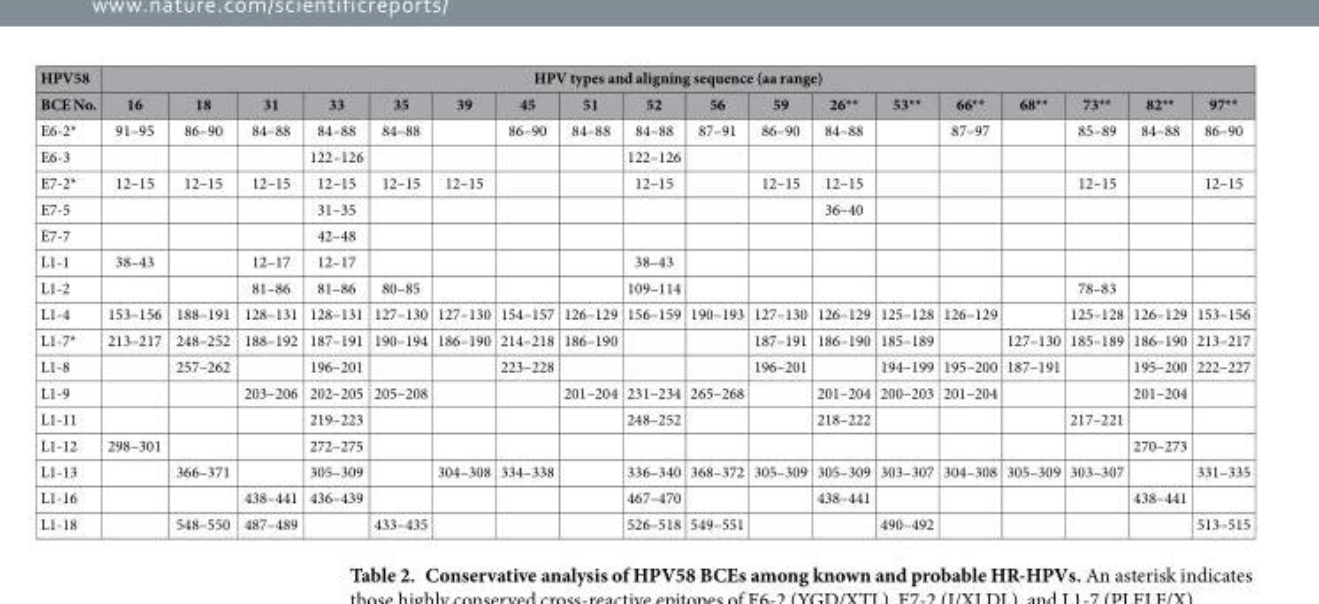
<table><thead><tr><td rowspan="2">HPV58 BCE No.</td><td colspan="18">HPV types and aligning sequence (aa range)</td></tr><tr><td>16</td><td>18</td><td>31</td><td>33</td><td>35</td><td>39</td><td>45</td><td>51</td><td>52</td><td>56</td><td>59</td><td>26**</td><td>53**</td><td>66**</td><td>68**</td><td>73**</td><td>82**</td><td>97**</td></tr></thead><tbody><tr><td>E6-2*</td><td>91–95</td><td>86–90</td><td>84–88</td><td>84–88</td><td>84–88</td><td></td><td>86–90</td><td>84–88</td><td>84–88</td><td>87–91</td><td>86–90</td><td>84–88</td><td></td><td>87–97</td><td></td><td>85–89</td><td>84–88</td><td>86–90</td></tr><tr><td>E6-3</td><td></td><td></td><td></td><td>122–126</td><td></td><td></td><td></td><td></td><td>122–126</td><td></td><td></td><td></td><td></td><td></td><td></td><td></td><td></td><td></td></tr><tr><td>E7-2*</td><td>12–15</td><td>12–15</td><td>12–15</td><td>12–15</td><td>12–15</td><td>12–15</td><td></td><td></td><td>12–15</td><td></td><td>12–15</td><td>12–15</td><td></td><td></td><td></td><td>12–15</td><td></td><td>12–15</td></tr><tr><td>E7-5</td><td></td><td></td><td></td><td>31–35</td><td></td><td></td><td></td><td></td><td></td><td></td><td></td><td>36–40</td><td></td><td></td><td></td><td></td><td></td><td></td></tr><tr><td>E7-7</td><td></td><td></td><td></td><td>42–48</td><td></td><td></td><td></td><td></td><td></td><td></td><td></td><td></td><td></td><td></td><td></td><td></td><td></td><td></td></tr><tr><td>L1-1</td><td>38–43</td><td></td><td>12–17</td><td>12–17</td><td></td><td></td><td></td><td></td><td>38–43</td><td></td><td></td><td></td><td></td><td></td><td></td><td></td><td></td><td></td></tr><tr><td>L1-2</td><td></td><td></td><td>81–86</td><td>81–86</td><td>80–85</td><td></td><td></td><td></td><td>109–114</td><td></td><td></td><td></td><td></td><td></td><td></td><td>78–83</td><td></td><td></td></tr><tr><td>L1-4</td><td>153–156</td><td>188–191</td><td>128–131</td><td>128–131</td><td>127–130</td><td>127–130</td><td>154–157</td><td>126–129</td><td>156–159</td><td>190–193</td><td>127–130</td><td>126–129</td><td>125–128</td><td>126–129</td><td></td><td>125–128</td><td>126–129</td><td>153–156</td></tr><tr><td>L1-7*</td><td>213–217</td><td>248–252</td><td>188–192</td><td>187–191</td><td>190–194</td><td>186–190</td><td>214–218</td><td>186–190</td><td></td><td></td><td>187–191</td><td>186–190</td><td>185–189</td><td></td><td>127–130</td><td>185–189</td><td>186–190</td><td>213–217</td></tr><tr><td>L1-8</td><td></td><td>257–262</td><td></td><td>196–201</td><td></td><td></td><td>223–228</td><td></td><td></td><td></td><td>196–201</td><td></td><td>194–199</td><td>195–200</td><td>187–191</td><td></td><td>195–200</td><td>222–227</td></tr><tr><td>L1-9</td><td></td><td></td><td>203–206</td><td>202–205</td><td>205–208</td><td></td><td></td><td>201–204</td><td>231–234</td><td>265–268</td><td></td><td>201–204</td><td>200–203</td><td>201–204</td><td></td><td></td><td>201–204</td><td></td></tr><tr><td>L1-11</td><td></td><td></td><td></td><td>219–223</td><td></td><td></td><td></td><td></td><td>248–252</td><td></td><td></td><td>218–222</td><td></td><td></td><td></td><td>217–221</td><td></td><td></td></tr><tr><td>L1-12</td><td>298–301</td><td></td><td></td><td>272–275</td><td></td><td></td><td></td><td></td><td></td><td></td><td></td><td></td><td></td><td></td><td></td><td></td><td>270–273</td><td></td></tr><tr><td>L1-13</td><td></td><td>366–371</td><td></td><td>305–309</td><td></td><td>304–308</td><td>334–338</td><td></td><td>336–340</td><td>368–372</td><td>305–309</td><td>305–309</td><td>303–307</td><td>304–308</td><td>305–309</td><td>303–307</td><td></td><td>331–335</td></tr><tr><td>L1-16</td><td></td><td></td><td>438–441</td><td>436–439</td><td></td><td></td><td></td><td></td><td>467–470</td><td></td><td></td><td>438–441</td><td></td><td></td><td></td><td></td><td>438–441</td><td></td></tr><tr><td>L1-18</td><td></td><td>548–550</td><td>487–489</td><td></td><td>433–435</td><td></td><td></td><td></td><td>526–518</td><td>549–551</td><td></td><td></td><td>490–492</td><td></td><td></td><td></td><td></td><td>513–515</td></tr></tbody></table>